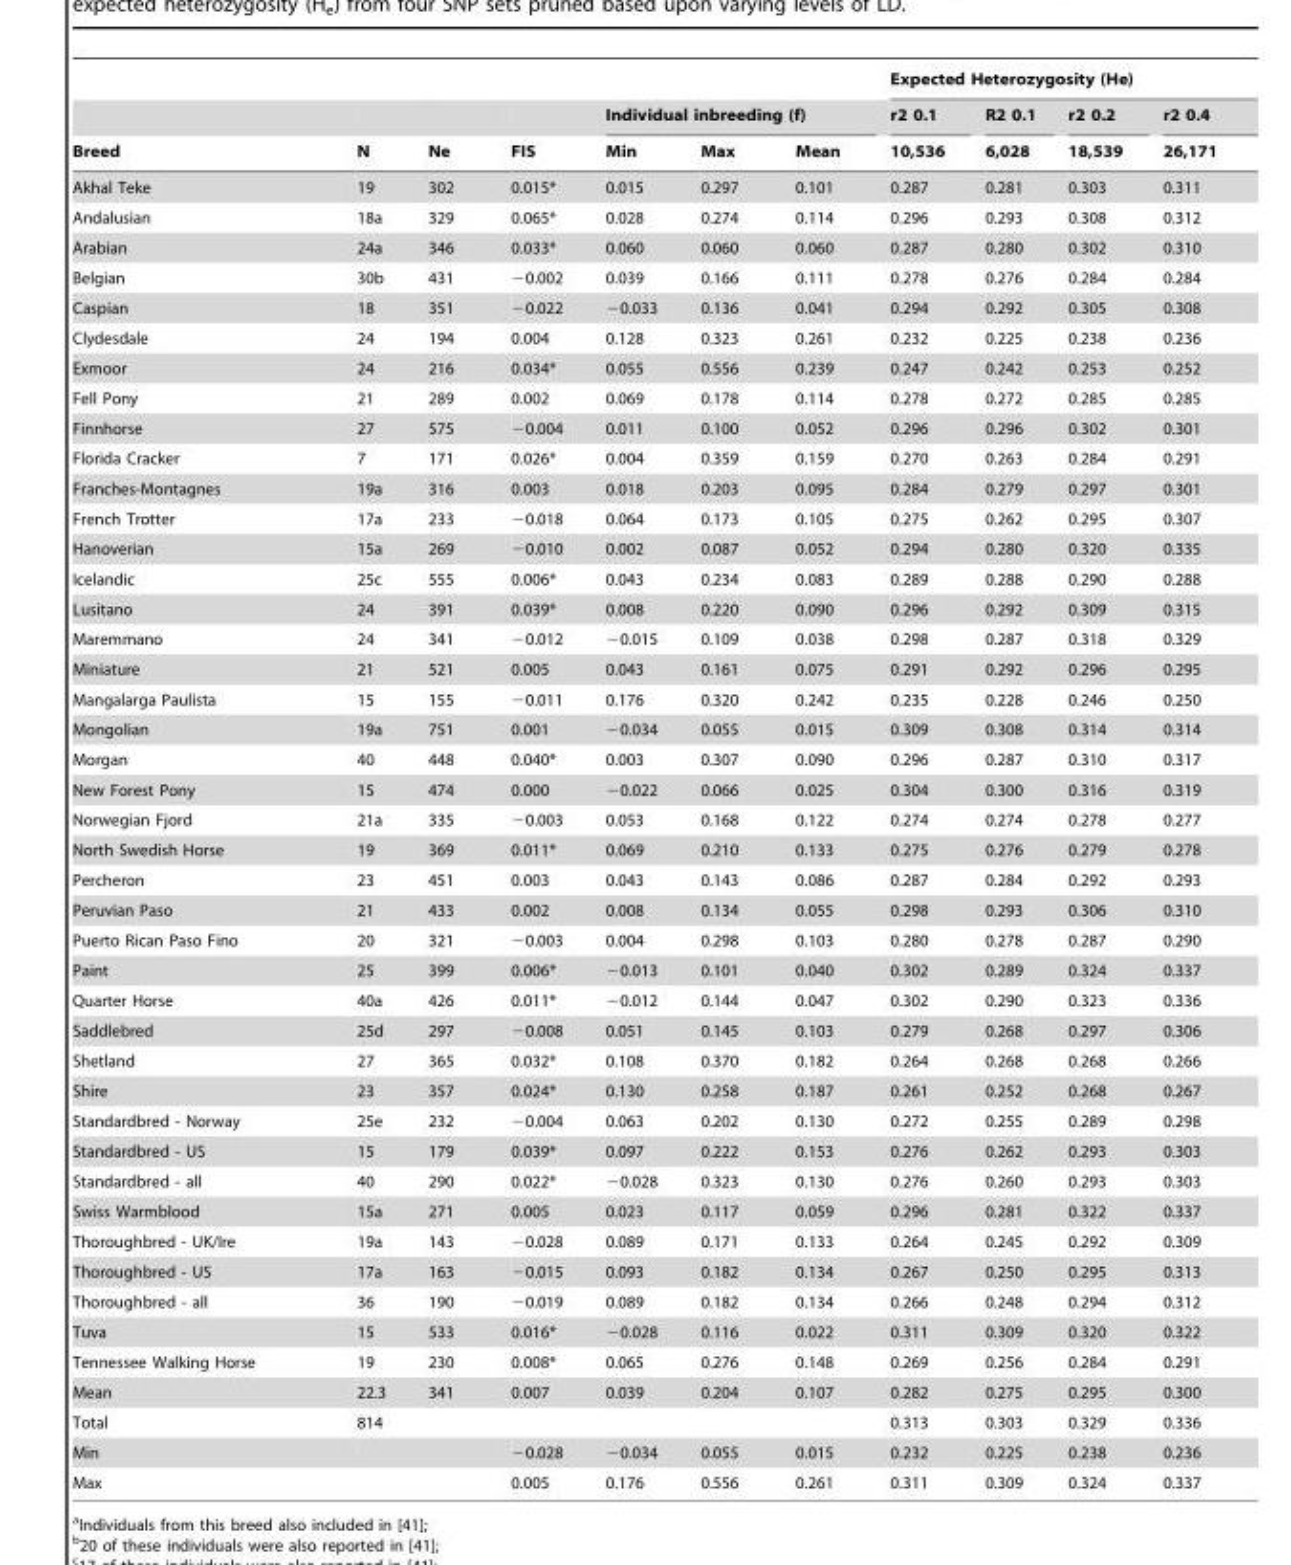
<table><thead><tr><td rowspan="3">Breed</td><td rowspan="3">N</td><td rowspan="3">Ne</td><td rowspan="3">FIS</td><td></td><td></td><td></td><td colspan="4">Expected Heterozygosity (He)</td></tr><tr><td colspan="3">Individual inbreeding (f)</td><td rowspan="2">r2 0.1 10,536</td><td rowspan="2">R2 0.1 6,028</td><td rowspan="2">r2 0.2 18,539</td><td rowspan="2">r2 0.4 26,171</td></tr><tr><td>Min</td><td>Max</td><td>Mean</td></tr></thead><tbody><tr><td>Akhal Teke</td><td>19</td><td>302</td><td>0.015*</td><td>0.015</td><td>0.297</td><td>0.101</td><td>0.287</td><td>0.281</td><td>0.303</td><td>0.311</td></tr><tr><td>Andalusian</td><td>18a</td><td>329</td><td>0.065*</td><td>0.028</td><td>0.274</td><td>0.114</td><td>0.296</td><td>0.293</td><td>0.308</td><td>0.312</td></tr><tr><td>Arabian</td><td>24a</td><td>346</td><td>0.033*</td><td>0.060</td><td>0.060</td><td>0.060</td><td>0.287</td><td>0.280</td><td>0.302</td><td>0.310</td></tr><tr><td>Belgian</td><td>30b</td><td>431</td><td>−0.002</td><td>0.039</td><td>0.166</td><td>0.111</td><td>0.278</td><td>0.276</td><td>0.284</td><td>0.284</td></tr><tr><td>Caspian</td><td>18</td><td>351</td><td>−0.022</td><td>−0.033</td><td>0.136</td><td>0.041</td><td>0.294</td><td>0.292</td><td>0.305</td><td>0.308</td></tr><tr><td>Clydesdale</td><td>24</td><td>194</td><td>0.004</td><td>0.128</td><td>0.323</td><td>0.261</td><td>0.232</td><td>0.225</td><td>0.238</td><td>0.236</td></tr><tr><td>Exmoor</td><td>24</td><td>216</td><td>0.034*</td><td>0.055</td><td>0.556</td><td>0.239</td><td>0.247</td><td>0.242</td><td>0.253</td><td>0.252</td></tr><tr><td>Fell Pony</td><td>21</td><td>289</td><td>0.002</td><td>0.069</td><td>0.178</td><td>0.114</td><td>0.278</td><td>0.272</td><td>0.285</td><td>0.285</td></tr><tr><td>Finnhorse</td><td>27</td><td>575</td><td>−0.004</td><td>0.011</td><td>0.100</td><td>0.052</td><td>0.296</td><td>0.296</td><td>0.302</td><td>0.301</td></tr><tr><td>Florida Cracker</td><td>7</td><td>171</td><td>0.026*</td><td>0.004</td><td>0.359</td><td>0.159</td><td>0.270</td><td>0.263</td><td>0.284</td><td>0.291</td></tr><tr><td>Franches-Montagnes</td><td>19a</td><td>316</td><td>0.003</td><td>0.018</td><td>0.203</td><td>0.095</td><td>0.284</td><td>0.279</td><td>0.297</td><td>0.301</td></tr><tr><td>French Trotter</td><td>17a</td><td>233</td><td>−0.018</td><td>0.064</td><td>0.173</td><td>0.105</td><td>0.275</td><td>0.262</td><td>0.295</td><td>0.307</td></tr><tr><td>Hanoverian</td><td>15a</td><td>269</td><td>−0.010</td><td>0.002</td><td>0.087</td><td>0.052</td><td>0.294</td><td>0.280</td><td>0.320</td><td>0.335</td></tr><tr><td>Icelandic</td><td>25c</td><td>555</td><td>0.006*</td><td>0.043</td><td>0.234</td><td>0.083</td><td>0.289</td><td>0.288</td><td>0.290</td><td>0.288</td></tr><tr><td>Lusitano</td><td>24</td><td>391</td><td>0.039*</td><td>0.008</td><td>0.220</td><td>0.090</td><td>0.296</td><td>0.292</td><td>0.309</td><td>0.315</td></tr><tr><td>Maremmano</td><td>24</td><td>341</td><td>−0.012</td><td>−0.015</td><td>0.109</td><td>0.038</td><td>0.298</td><td>0.287</td><td>0.318</td><td>0.329</td></tr><tr><td>Miniature</td><td>21</td><td>521</td><td>0.005</td><td>0.043</td><td>0.161</td><td>0.075</td><td>0.291</td><td>0.292</td><td>0.296</td><td>0.295</td></tr><tr><td>Mangalarga Paulista</td><td>15</td><td>155</td><td>−0.011</td><td>0.176</td><td>0.320</td><td>0.242</td><td>0.235</td><td>0.228</td><td>0.246</td><td>0.250</td></tr><tr><td>Mongolian</td><td>19a</td><td>751</td><td>0.001</td><td>−0.034</td><td>0.055</td><td>0.015</td><td>0.309</td><td>0.308</td><td>0.314</td><td>0.314</td></tr><tr><td>Morgan</td><td>40</td><td>448</td><td>0.040*</td><td>0.003</td><td>0.307</td><td>0.090</td><td>0.296</td><td>0.287</td><td>0.310</td><td>0.317</td></tr><tr><td>New Forest Pony</td><td>15</td><td>474</td><td>0.000</td><td>−0.022</td><td>0.066</td><td>0.025</td><td>0.304</td><td>0.300</td><td>0.316</td><td>0.319</td></tr><tr><td>Norwegian Fjord</td><td>21a</td><td>335</td><td>−0.003</td><td>0.053</td><td>0.168</td><td>0.122</td><td>0.274</td><td>0.274</td><td>0.278</td><td>0.277</td></tr><tr><td>North Swedish Horse</td><td>19</td><td>369</td><td>0.011*</td><td>0.069</td><td>0.210</td><td>0.133</td><td>0.275</td><td>0.276</td><td>0.279</td><td>0.278</td></tr><tr><td>Percheron</td><td>23</td><td>451</td><td>0.003</td><td>0.043</td><td>0.143</td><td>0.086</td><td>0.287</td><td>0.284</td><td>0.292</td><td>0.293</td></tr><tr><td>Peruvian Paso</td><td>21</td><td>433</td><td>0.002</td><td>0.008</td><td>0.134</td><td>0.055</td><td>0.298</td><td>0.293</td><td>0.306</td><td>0.310</td></tr><tr><td>Puerto Rican Paso Fino</td><td>20</td><td>321</td><td>−0.003</td><td>0.004</td><td>0.298</td><td>0.103</td><td>0.280</td><td>0.278</td><td>0.287</td><td>0.290</td></tr><tr><td>Paint</td><td>25</td><td>399</td><td>0.006*</td><td>−0.013</td><td>0.101</td><td>0.040</td><td>0.302</td><td>0.289</td><td>0.324</td><td>0.337</td></tr><tr><td>Quarter Horse</td><td>40a</td><td>426</td><td>0.011*</td><td>−0.012</td><td>0.144</td><td>0.047</td><td>0.302</td><td>0.290</td><td>0.323</td><td>0.336</td></tr><tr><td>Saddlebred</td><td>25d</td><td>297</td><td>−0.008</td><td>0.051</td><td>0.145</td><td>0.103</td><td>0.279</td><td>0.268</td><td>0.297</td><td>0.306</td></tr><tr><td>Shetland</td><td>27</td><td>365</td><td>0.032*</td><td>0.108</td><td>0.370</td><td>0.182</td><td>0.264</td><td>0.268</td><td>0.268</td><td>0.266</td></tr><tr><td>Shire</td><td>23</td><td>357</td><td>0.024*</td><td>0.130</td><td>0.258</td><td>0.187</td><td>0.261</td><td>0.252</td><td>0.268</td><td>0.267</td></tr><tr><td>Standardbred - Norway</td><td>25e</td><td>232</td><td>−0.004</td><td>0.063</td><td>0.202</td><td>0.130</td><td>0.272</td><td>0.255</td><td>0.289</td><td>0.298</td></tr><tr><td>Standardbred - US</td><td>15</td><td>179</td><td>0.039*</td><td>0.097</td><td>0.222</td><td>0.153</td><td>0.276</td><td>0.262</td><td>0.293</td><td>0.303</td></tr><tr><td>Standardbred - all</td><td>40</td><td>290</td><td>0.022*</td><td>−0.028</td><td>0.323</td><td>0.130</td><td>0.276</td><td>0.260</td><td>0.293</td><td>0.303</td></tr><tr><td>Swiss Warmblood</td><td>15a</td><td>271</td><td>0.005</td><td>0.023</td><td>0.117</td><td>0.059</td><td>0.296</td><td>0.281</td><td>0.322</td><td>0.337</td></tr><tr><td>Thoroughbred - UK/Ire</td><td>19a</td><td>143</td><td>−0.028</td><td>0.089</td><td>0.171</td><td>0.133</td><td>0.264</td><td>0.245</td><td>0.292</td><td>0.309</td></tr><tr><td>Thoroughbred - US</td><td>17a</td><td>163</td><td>−0.015</td><td>0.093</td><td>0.182</td><td>0.134</td><td>0.267</td><td>0.250</td><td>0.295</td><td>0.313</td></tr><tr><td>Thoroughbred - all</td><td>36</td><td>190</td><td>−0.019</td><td>0.089</td><td>0.182</td><td>0.134</td><td>0.266</td><td>0.248</td><td>0.294</td><td>0.312</td></tr><tr><td>Tuva</td><td>15</td><td>533</td><td>0.016*</td><td>−0.028</td><td>0.116</td><td>0.022</td><td>0.311</td><td>0.309</td><td>0.320</td><td>0.322</td></tr><tr><td>Tennessee Walking Horse</td><td>19</td><td>230</td><td>0.008*</td><td>0.065</td><td>0.276</td><td>0.148</td><td>0.269</td><td>0.256</td><td>0.284</td><td>0.291</td></tr><tr><td>Mean</td><td>22.3</td><td>341</td><td>0.007</td><td>0.039</td><td>0.204</td><td>0.107</td><td>0.282</td><td>0.275</td><td>0.295</td><td>0.300</td></tr><tr><td>Total</td><td>814</td><td></td><td></td><td></td><td></td><td></td><td>0.313</td><td>0.303</td><td>0.329</td><td>0.336</td></tr><tr><td>Min</td><td></td><td></td><td>−0.028</td><td>−0.034</td><td>0.055</td><td>0.015</td><td>0.232</td><td>0.225</td><td>0.238</td><td>0.236</td></tr><tr><td>Max</td><td></td><td></td><td>0.005</td><td>0.176</td><td>0.556</td><td>0.261</td><td>0.311</td><td>0.309</td><td>0.324</td><td>0.337</td></tr></tbody></table>